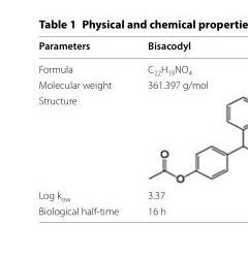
<table><thead><tr><td>Parameters</td><td>Bisacodyl</td></tr></thead><tbody><tr><td>Formula</td><td>C<sub>22</sub>H<sub>19</sub>NO<sub>4</sub></td></tr><tr><td>Molecular weight</td><td>361.397 g/mol</td></tr><tr><td colspan="2">Structure</td></tr><tr><td>Log k<sub>ow</sub></td><td>3.37</td></tr><tr><td>Biological half-time</td><td>16 h</td></tr></tbody></table>